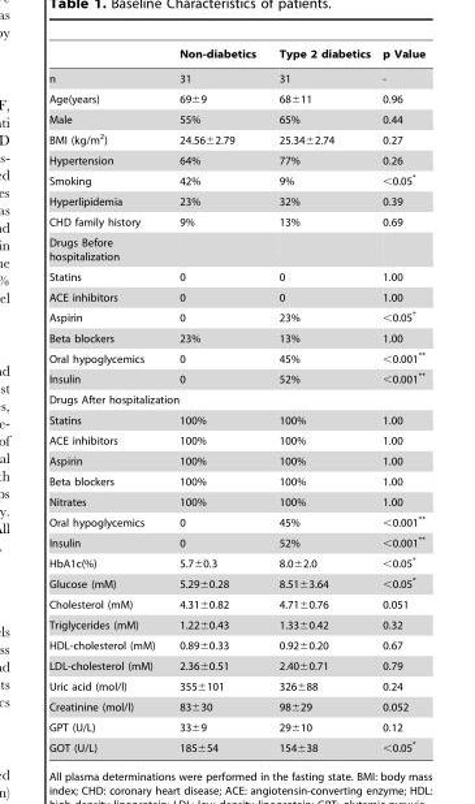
<table><thead><tr><td></td><td>Non-diabetics</td><td>Type 2 diabetics</td><td>p Value</td></tr></thead><tbody><tr><td>n</td><td>31</td><td>31</td><td>-</td></tr><tr><td>Age(years)</td><td>69±9</td><td>68±11</td><td>0.96</td></tr><tr><td>Male</td><td>55%</td><td>65%</td><td>0.44</td></tr><tr><td>BMI (kg/m<sup>2</sup>)</td><td>24.56±2.79</td><td>25.34±2.74</td><td>0.27</td></tr><tr><td>Hypertension</td><td>64%</td><td>77%</td><td>0.26</td></tr><tr><td>Smoking</td><td>42%</td><td>9%</td><td>&lt;0.05*</td></tr><tr><td>Hyperlipidemia</td><td>23%</td><td>32%</td><td>0.39</td></tr><tr><td>CHD family history</td><td>9%</td><td>13%</td><td>0.69</td></tr><tr><td colspan="4">Drugs Before hospitalization</td></tr><tr><td>Statins</td><td>0</td><td>0</td><td>1.00</td></tr><tr><td>ACE inhibitors</td><td>0</td><td>0</td><td>1.00</td></tr><tr><td>Aspirin</td><td>0</td><td>23%</td><td>&lt;0.05*</td></tr><tr><td>Beta blockers</td><td>23%</td><td>13%</td><td>1.00</td></tr><tr><td>Oral hypoglycemics</td><td>0</td><td>45%</td><td>&lt;0.001**</td></tr><tr><td>Insulin</td><td>0</td><td>52%</td><td>&lt;0.001**</td></tr><tr><td colspan="4">Drugs After hospitalization</td></tr><tr><td>Statins</td><td>100%</td><td>100%</td><td>1.00</td></tr><tr><td>ACE inhibitors</td><td>100%</td><td>100%</td><td>1.00</td></tr><tr><td>Aspirin</td><td>100%</td><td>100%</td><td>1.00</td></tr><tr><td>Beta blockers</td><td>100%</td><td>100%</td><td>1.00</td></tr><tr><td>Nitrates</td><td>100%</td><td>100%</td><td>1.00</td></tr><tr><td>Oral hypoglycemics</td><td>0</td><td>45%</td><td>&lt;0.001**</td></tr><tr><td>Insulin</td><td>0</td><td>52%</td><td>&lt;0.001**</td></tr><tr><td>HbA1c(%)</td><td>5.7±0.3</td><td>8.0±2.0</td><td>&lt;0.05*</td></tr><tr><td>Glucose (mM)</td><td>5.29±0.28</td><td>8.51±3.64</td><td>&lt;0.05*</td></tr><tr><td>Cholesterol (mM)</td><td>4.31±0.82</td><td>4.71±0.76</td><td>0.051</td></tr><tr><td>Triglycerides (mM)</td><td>1.22±0.43</td><td>1.33±0.42</td><td>0.32</td></tr><tr><td>HDL-cholesterol (mM)</td><td>0.89±0.33</td><td>0.92±0.20</td><td>0.67</td></tr><tr><td>LDL-cholesterol (mM)</td><td>2.36±0.51</td><td>2.40±0.71</td><td>0.79</td></tr><tr><td>Uric acid (mol/l)</td><td>355±101</td><td>326±88</td><td>0.24</td></tr><tr><td>Creatinine (mol/l)</td><td>83±30</td><td>98±29</td><td>0.052</td></tr><tr><td>GPT (U/L)</td><td>33±9</td><td>29±10</td><td>0.12</td></tr><tr><td>GOT (U/L)</td><td>185±54</td><td>154±38</td><td>&lt;0.05*</td></tr></tbody></table>